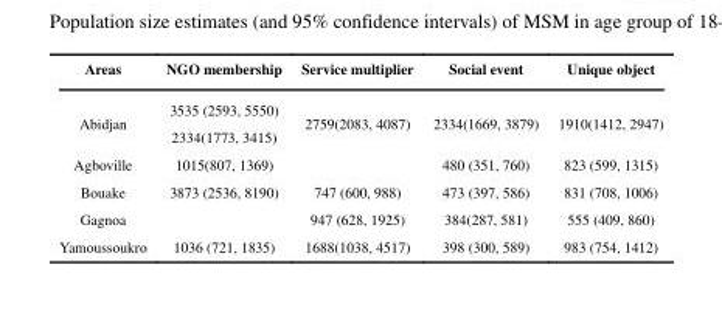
<table><thead><tr><td>Areas</td><td>NGO membership</td><td>Service multiplier</td><td>Social event</td><td>Unique object</td></tr></thead><tbody><tr><td rowspan="2">Abidjan</td><td>3535 (2593, 5550)</td><td rowspan="2">2759(2083, 4087)</td><td rowspan="2">2334(1669, 3879)</td><td rowspan="2">1910(1412, 2947)</td></tr><tr><td>2334(1773, 3415)</td></tr><tr><td>Agboville</td><td>1015(807, 1369)</td><td></td><td>480 (351, 760)</td><td>823 (599, 1315)</td></tr><tr><td>Bouake</td><td>3873 (2536, 8190)</td><td>747 (600, 988)</td><td>473 (397, 586)</td><td>831 (708, 1006)</td></tr><tr><td>Gagnoa</td><td></td><td>947 (628, 1925)</td><td>384(287, 581)</td><td>555 (409, 860)</td></tr><tr><td>Yamoussoukro</td><td>1036 (721, 1835)</td><td>1688(1038, 4517)</td><td>398 (300, 589)</td><td>983 (754, 1412)</td></tr></tbody></table>